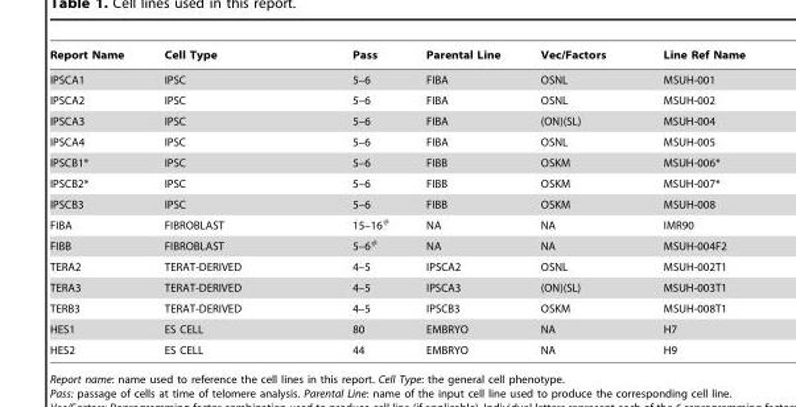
<table><thead><tr><td>Report Name</td><td>Cell Type</td><td>Pass</td><td>Parental Line</td><td>Vec/Factors</td><td>Line Ref Name</td></tr></thead><tbody><tr><td>IPSCA1</td><td>IPSC</td><td>5–6</td><td>FIBA</td><td>OSNL</td><td>MSUH-001</td></tr><tr><td>IPSCA2</td><td>IPSC</td><td>5–6</td><td>FIBA</td><td>OSNL</td><td>MSUH-002</td></tr><tr><td>IPSCA3</td><td>IPSC</td><td>5–6</td><td>FIBA</td><td>(ON)(SL)</td><td>MSUH-004</td></tr><tr><td>IPSCA4</td><td>IPSC</td><td>5–6</td><td>FIBA</td><td>OSNL</td><td>MSUH-005</td></tr><tr><td>IPSCB1*</td><td>IPSC</td><td>5–6</td><td>FIBB</td><td>OSKM</td><td>MSUH-006*</td></tr><tr><td>IPSCB2*</td><td>IPSC</td><td>5–6</td><td>FIBB</td><td>OSKM</td><td>MSUH-007*</td></tr><tr><td>IPSCB3</td><td>IPSC</td><td>5–6</td><td>FIBB</td><td>OSKM</td><td>MSUH-008</td></tr><tr><td>FIBA</td><td>FIBROBLAST</td><td>15–16#</td><td>NA</td><td>NA</td><td>IMR90</td></tr><tr><td>FIBB</td><td>FIBROBLAST</td><td>5–6#</td><td>NA</td><td>NA</td><td>MSUH-004F2</td></tr><tr><td>TERA2</td><td>TERAT-DERIVED</td><td>4–5</td><td>IPSCA2</td><td>OSNL</td><td>MSUH-002T1</td></tr><tr><td>TERA3</td><td>TERAT-DERIVED</td><td>4–5</td><td>IPSCA3</td><td>(ON)(SL)</td><td>MSUH-003T1</td></tr><tr><td>TERB3</td><td>TERAT-DERIVED</td><td>4–5</td><td>IPSCB3</td><td>OSKM</td><td>MSUH-008T1</td></tr><tr><td>HES1</td><td>ES CELL</td><td>80</td><td>EMBRYO</td><td>NA</td><td>H7</td></tr><tr><td>HES2</td><td>ES CELL</td><td>44</td><td>EMBRYO</td><td>NA</td><td>H9</td></tr></tbody></table>